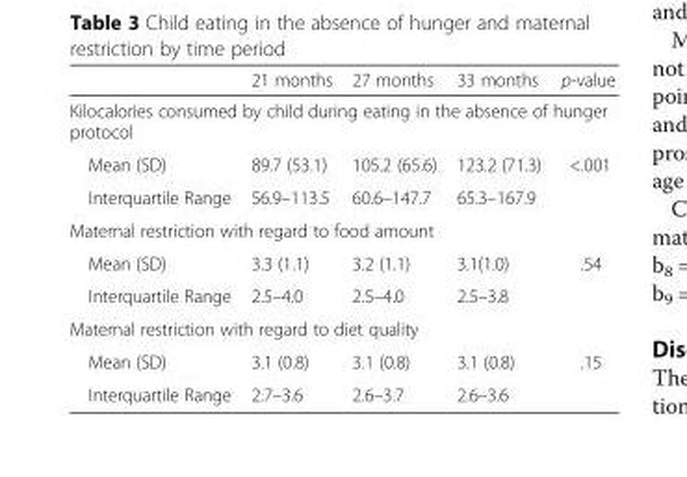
<table><thead><tr><td></td><td>21 months</td><td>27 months</td><td>33 months</td><td>p-value</td></tr></thead><tbody><tr><td colspan="5">Kilocalories consumed by child during eating in the absence of hunger protocol</td></tr><tr><td>Mean (SD)</td><td>89.7 (53.1)</td><td>105.2 (65.6)</td><td>123.2 (71.3)</td><td>&lt;.001</td></tr><tr><td>Interquartile Range</td><td>56.9–113.5</td><td>60.6–147.7</td><td>65.3–167.9</td><td></td></tr><tr><td colspan="5">Maternal restriction with regard to food amount</td></tr><tr><td>Mean (SD)</td><td>3.3 (1.1)</td><td>3.2 (1.1)</td><td>3.1(1.0)</td><td>.54</td></tr><tr><td>Interquartile Range</td><td>2.5–4.0</td><td>2.5–4.0</td><td>2.5–3.8</td><td></td></tr><tr><td colspan="5">Maternal restriction with regard to diet quality</td></tr><tr><td>Mean (SD)</td><td>3.1 (0.8)</td><td>3.1 (0.8)</td><td>3.1 (0.8)</td><td>.15</td></tr><tr><td>Interquartile Range</td><td>2.7–3.6</td><td>2.6–3.7</td><td>2.6–3.6</td><td></td></tr></tbody></table>